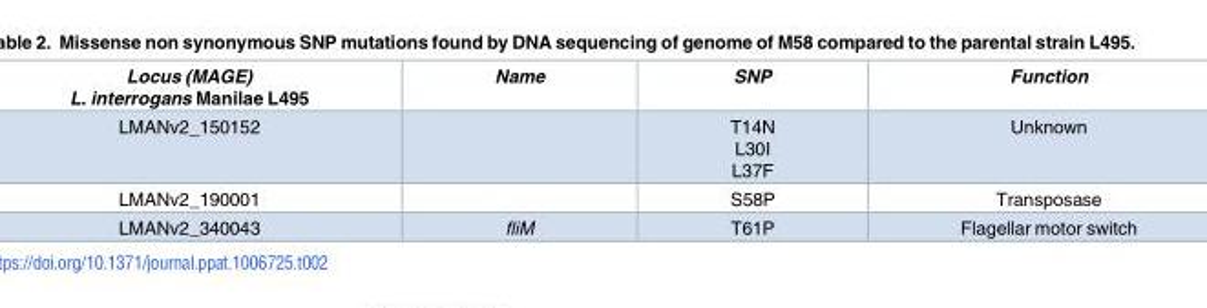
<table><thead><tr><td>Locus (MAGE) L. interrogans Manilae L495</td><td>Name</td><td>SNP</td><td>Function</td></tr></thead><tbody><tr><td>LMANv2_150152</td><td></td><td>T14N L30I L37F</td><td>Unknown</td></tr><tr><td>LMANv2_190001</td><td></td><td>S58P</td><td>Transposase</td></tr><tr><td>LMANv2_340043</td><td>fliM</td><td>T61P</td><td>Flagellar motor switch</td></tr></tbody></table>